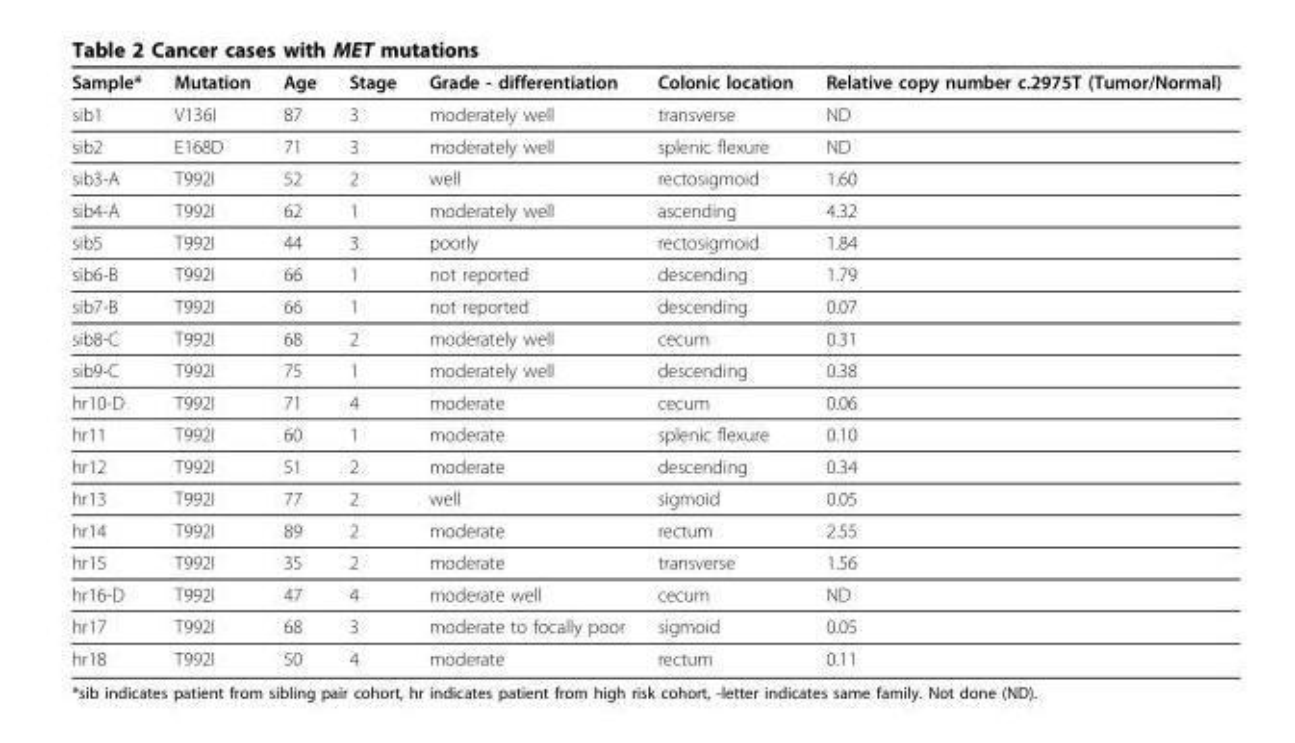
<table><thead><tr><td>Sample*</td><td>Mutation</td><td>Age</td><td>Stage</td><td>Grade - differentiation</td><td>Colonic location</td><td>Relative copy number c.2975T (Tumor/Normal)</td></tr></thead><tbody><tr><td>sib1</td><td>V136I</td><td>87</td><td>3</td><td>moderately well</td><td>transverse</td><td>ND</td></tr><tr><td>sib2</td><td>E168D</td><td>71</td><td>3</td><td>moderately well</td><td>splenic flexure</td><td>ND</td></tr><tr><td>sib3-A</td><td>T992I</td><td>52</td><td>2</td><td>well</td><td>rectosigmoid</td><td>1.60</td></tr><tr><td>sib4-A</td><td>T992I</td><td>62</td><td>1</td><td>moderately well</td><td>ascending</td><td>4.32</td></tr><tr><td>sib5</td><td>T992I</td><td>44</td><td>3</td><td>poorly</td><td>rectosigmoid</td><td>1.84</td></tr><tr><td>sib6-B</td><td>T992I</td><td>66</td><td>1</td><td>not reported</td><td>descending</td><td>1.79</td></tr><tr><td>sib7-B</td><td>T992I</td><td>66</td><td>1</td><td>not reported</td><td>descending</td><td>0.07</td></tr><tr><td>sib8-C</td><td>T992I</td><td>68</td><td>2</td><td>moderately well</td><td>cecum</td><td>0.31</td></tr><tr><td>sib9-C</td><td>T992I</td><td>75</td><td>1</td><td>moderately well</td><td>descending</td><td>0.38</td></tr><tr><td>hr10-D</td><td>T992I</td><td>71</td><td>4</td><td>moderate</td><td>cecum</td><td>0.06</td></tr><tr><td>hr11</td><td>T992I</td><td>60</td><td>1</td><td>moderate</td><td>splenic flexure</td><td>0.10</td></tr><tr><td>hr12</td><td>T992I</td><td>51</td><td>2</td><td>moderate</td><td>descending</td><td>0.34</td></tr><tr><td>hr13</td><td>T992I</td><td>77</td><td>2</td><td>well</td><td>sigmoid</td><td>0.05</td></tr><tr><td>hr14</td><td>T992I</td><td>89</td><td>2</td><td>moderate</td><td>rectum</td><td>2.55</td></tr><tr><td>hr15</td><td>T992I</td><td>35</td><td>2</td><td>moderate</td><td>transverse</td><td>1.56</td></tr><tr><td>hr16-D</td><td>T992I</td><td>47</td><td>4</td><td>moderate well</td><td>cecum</td><td>ND</td></tr><tr><td>hr17</td><td>T992I</td><td>68</td><td>3</td><td>moderate to focally poor</td><td>sigmoid</td><td>0.05</td></tr><tr><td>hr18</td><td>T992I</td><td>50</td><td>4</td><td>moderate</td><td>rectum</td><td>0.11</td></tr></tbody></table>